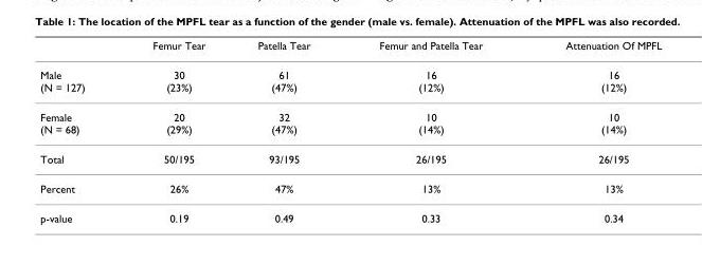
<table><thead><tr><td></td><td>Femur Tear</td><td>Patella Tear</td><td>Femur and Patella Tear</td><td>Attenuation Of MPFL</td></tr></thead><tbody><tr><td>Male (N = 127)</td><td>30 (23%)</td><td>61 (47%)</td><td>16 (12%)</td><td>16 (12%)</td></tr><tr><td>Female (N = 68)</td><td>20 (29%)</td><td>32 (47%)</td><td>10 (14%)</td><td>10 (14%)</td></tr><tr><td>Total</td><td>50/195</td><td>93/195</td><td>26/195</td><td>26/195</td></tr><tr><td>Percent</td><td>26%</td><td>47%</td><td>13%</td><td>13%</td></tr><tr><td>p-value</td><td>0.19</td><td>0.49</td><td>0.33</td><td>0.34</td></tr></tbody></table>